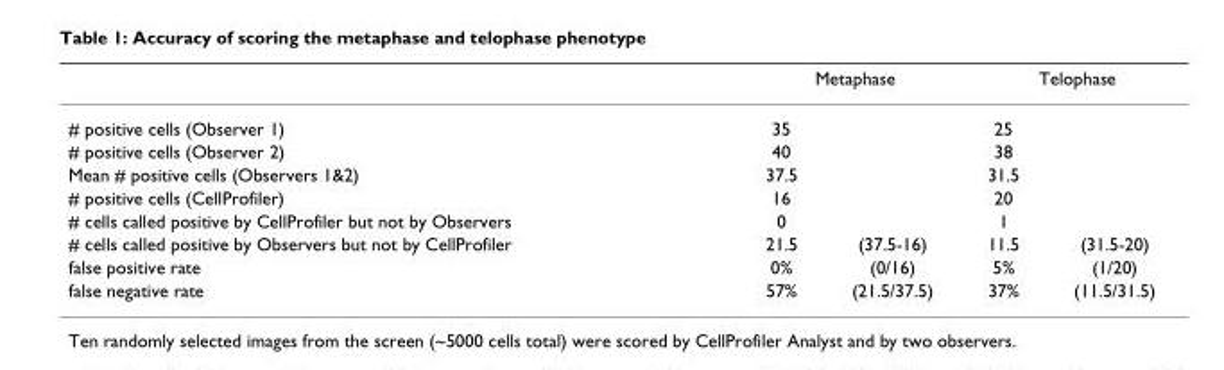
<table><thead><tr><td rowspan="2"># positive cells (Observer 1)</td><td colspan="2">Metaphase</td><td colspan="2">Telophase</td></tr><tr><td>35</td><td></td><td>25</td><td></td></tr></thead><tbody><tr><td># positive cells (Observer 2)</td><td>40</td><td></td><td>38</td><td></td></tr><tr><td>Mean # positive cells (Observers 1&amp;2)</td><td>37.5</td><td></td><td>31.5</td><td></td></tr><tr><td># positive cells (CellProfiler)</td><td>16</td><td></td><td>20</td><td></td></tr><tr><td># cells called positive by CellProfiler but not by Observers</td><td>0</td><td></td><td>1</td><td></td></tr><tr><td># cells called positive by Observers but not by CellProfiler</td><td>21.5</td><td>(37.5-16)</td><td>11.5</td><td>(31.5-20)</td></tr><tr><td>false positive rate</td><td>0%</td><td>(0/16)</td><td>5%</td><td>(1/20)</td></tr><tr><td>false negative rate</td><td>57%</td><td>(21.5/37.5)</td><td>37%</td><td>(11.5/31.5)</td></tr></tbody></table>